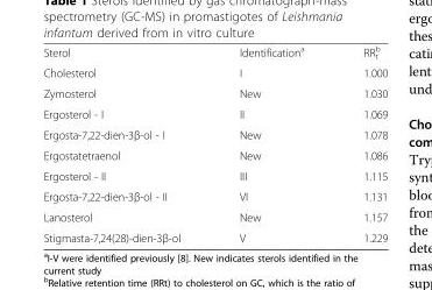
<table><tbody><tr><td>Sterol</td><td>Identification<sup>a</sup></td><td>RR<sub>t</sub> <sup>b</sup></td></tr><tr><td>Cholesterol</td><td>I</td><td>1.000</td></tr><tr><td>Zymosterol</td><td>New</td><td>1.030</td></tr><tr><td>Ergosterol - I</td><td>II</td><td>1.069</td></tr><tr><td>Ergosta-7,22-dien-3β-ol - I</td><td>New</td><td>1.078</td></tr><tr><td>Ergostatetraenol</td><td>New</td><td>1.086</td></tr><tr><td>Ergosterol - II</td><td>III</td><td>1.115</td></tr><tr><td>Ergosta-7,22-dien-3β-ol - II</td><td>VI</td><td>1.131</td></tr><tr><td>Lanosterol</td><td>New</td><td>1.157</td></tr><tr><td>Stigmasta-7,24(28)-dien-3β-ol</td><td>V</td><td>1.229</td></tr></tbody></table>